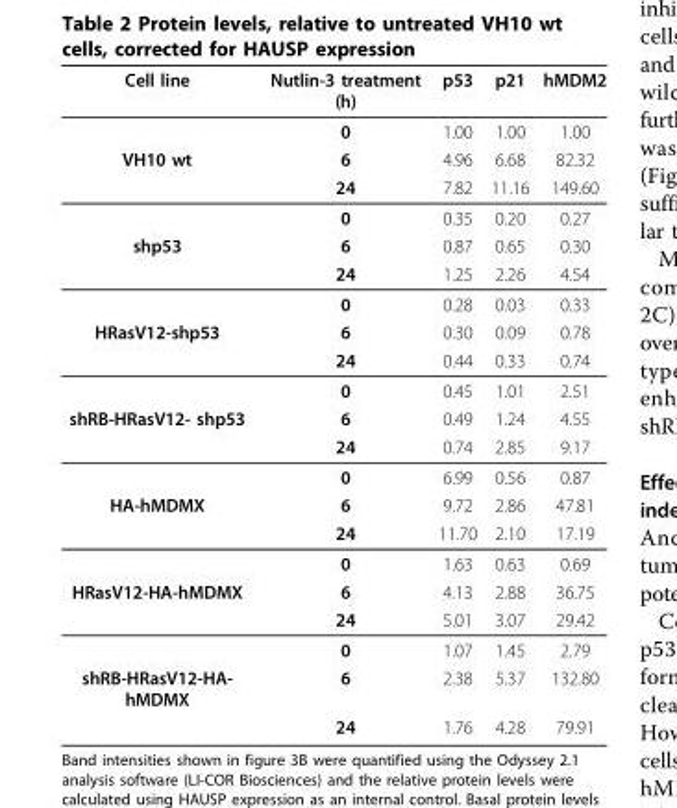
<table><thead><tr><td>Cell line</td><td>Nutlin-3 treatment (h)</td><td>p53</td><td>p21</td><td>hMDM2</td></tr></thead><tbody><tr><td></td><td>0</td><td>1.00</td><td>1.00</td><td>1.00</td></tr><tr><td rowspan="3">VH10 wt</td><td>6</td><td>4.96</td><td>6.68</td><td>82.32</td></tr><tr><td>24</td><td>7.82</td><td>11.16</td><td>149.60</td></tr><tr><td>0</td><td>0.35</td><td>0.20</td><td>0.27</td></tr><tr><td rowspan="3">shp53</td><td>6</td><td>0.87</td><td>0.65</td><td>0.30</td></tr><tr><td>24</td><td>1.25</td><td>2.26</td><td>4.54</td></tr><tr><td>0</td><td>0.28</td><td>0.03</td><td>0.33</td></tr><tr><td rowspan="3">HRasV12-shp53</td><td>6</td><td>0.30</td><td>0.09</td><td>0.78</td></tr><tr><td>24</td><td>0.44</td><td>0.33</td><td>0.74</td></tr><tr><td>0</td><td>0.45</td><td>1.01</td><td>2.51</td></tr><tr><td rowspan="3">shRB-HRasV12- shp53</td><td>6</td><td>0.49</td><td>1.24</td><td>4.55</td></tr><tr><td>24</td><td>0.74</td><td>2.85</td><td>9.17</td></tr><tr><td>0</td><td>6.99</td><td>0.56</td><td>0.87</td></tr><tr><td rowspan="3">HA-hMDMX</td><td>6</td><td>9.72</td><td>2.86</td><td>47.81</td></tr><tr><td>24</td><td>11.70</td><td>2.10</td><td>17.19</td></tr><tr><td>0</td><td>1.63</td><td>0.63</td><td>0.69</td></tr><tr><td rowspan="3">HRasV12-HA-hMDMX</td><td>6</td><td>4.13</td><td>2.88</td><td>36.75</td></tr><tr><td>24</td><td>5.01</td><td>3.07</td><td>29.42</td></tr><tr><td>0</td><td>1.07</td><td>1.45</td><td>2.79</td></tr><tr><td rowspan="2">shRB-HRasV12-HA- hMDMX</td><td>6</td><td>2.38</td><td>5.37</td><td>132.80</td></tr><tr><td>24</td><td>1.76</td><td>4.28</td><td>79.91</td></tr></tbody></table>